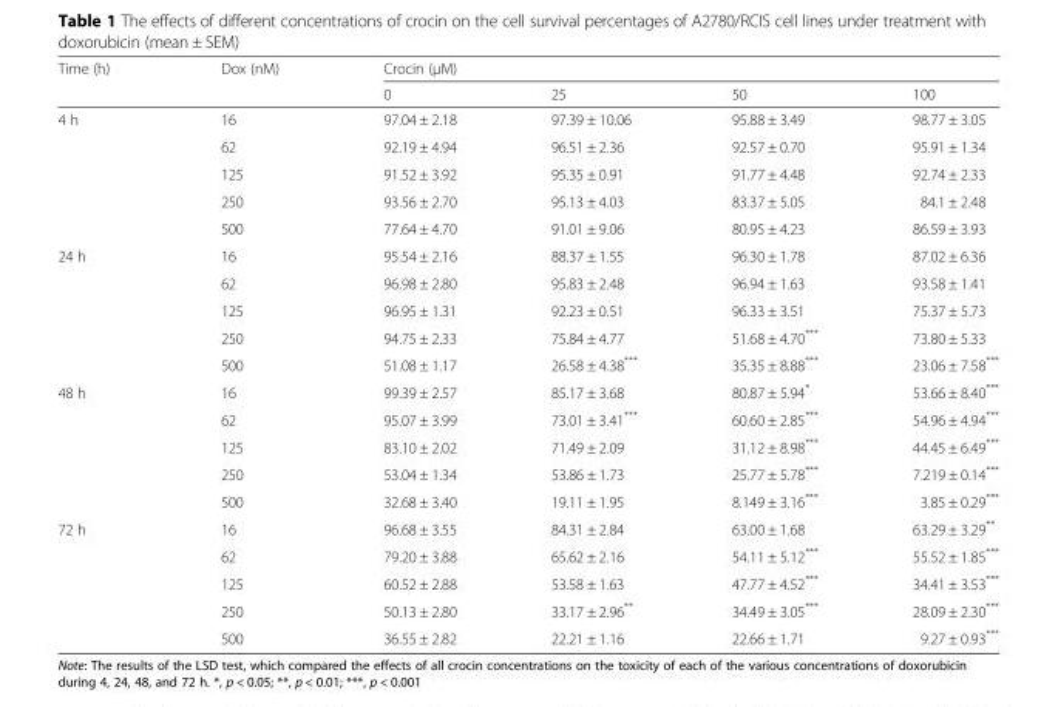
<table><thead><tr><td rowspan="2">Time (h)</td><td rowspan="2">Dox (nM)</td><td colspan="4">Crocin (μM)</td></tr><tr><td>0</td><td>25</td><td>50</td><td>100</td></tr></thead><tbody><tr><td rowspan="5">4 h</td><td>16</td><td>97.04 ± 2.18</td><td>97.39 ± 10.06</td><td>95.88 ± 3.49</td><td>98.77 ± 3.05</td></tr><tr><td>62</td><td>92.19 ± 4.94</td><td>96.51 ± 2.36</td><td>92.57 ± 0.70</td><td>95.91 ± 1.34</td></tr><tr><td>125</td><td>91.52 ± 3.92</td><td>95.35 ± 0.91</td><td>91.77 ± 4.48</td><td>92.74 ± 2.33</td></tr><tr><td>250</td><td>93.56 ± 2.70</td><td>95.13 ± 4.03</td><td>83.37 ± 5.05</td><td>84.1 ± 2.48</td></tr><tr><td>500</td><td>77.64 ± 4.70</td><td>91.01 ± 9.06</td><td>80.95 ± 4.23</td><td>86.59 ± 3.93</td></tr><tr><td rowspan="5">24 h</td><td>16</td><td>95.54 ± 2.16</td><td>88.37 ± 1.55</td><td>96.30 ± 1.78</td><td>87.02 ± 6.36</td></tr><tr><td>62</td><td>96.98 ± 2.80</td><td>95.83 ± 2.48</td><td>96.94 ± 1.63</td><td>93.58 ± 1.41</td></tr><tr><td>125</td><td>96.95 ± 1.31</td><td>92.23 ± 0.51</td><td>96.33 ± 3.51</td><td>75.37 ± 5.73</td></tr><tr><td>250</td><td>94.75 ± 2.33</td><td>75.84 ± 4.77</td><td>51.68 ± 4.70***</td><td>73.80 ± 5.33</td></tr><tr><td>500</td><td>51.08 ± 1.17</td><td>26.58 ± 4.38***</td><td>35.35 ± 8.88***</td><td>23.06 ± 7.58***</td></tr><tr><td rowspan="5">48 h</td><td>16</td><td>99.39 ± 2.57</td><td>85.17 ± 3.68</td><td>80.87 ± 5.94*</td><td>53.66 ± 8.40***</td></tr><tr><td>62</td><td>95.07 ± 3.99</td><td>73.01 ± 3.41***</td><td>60.60 ± 2.85***</td><td>54.96 ± 4.94***</td></tr><tr><td>125</td><td>83.10 ± 2.02</td><td>71.49 ± 2.09</td><td>31.12 ± 8.98***</td><td>44.45 ± 6.49***</td></tr><tr><td>250</td><td>53.04 ± 1.34</td><td>53.86 ± 1.73</td><td>25.77 ± 5.78***</td><td>7.219 ± 0.14***</td></tr><tr><td>500</td><td>32.68 ± 3.40</td><td>19.11 ± 1.95</td><td>8.149 ± 3.16***</td><td>3.85 ± 0.29***</td></tr><tr><td rowspan="5">72 h</td><td>16</td><td>96.68 ± 3.55</td><td>84.31 ± 2.84</td><td>63.00 ± 1.68</td><td>63.29 ± 3.29**</td></tr><tr><td>62</td><td>79.20 ± 3.88</td><td>65.62 ± 2.16</td><td>54.11 ± 5.12***</td><td>55.52 ± 1.85***</td></tr><tr><td>125</td><td>60.52 ± 2.88</td><td>53.58 ± 1.63</td><td>47.77 ± 4.52***</td><td>34.41 ± 3.53***</td></tr><tr><td>250</td><td>50.13 ± 2.80</td><td>33.17 ± 2.96**</td><td>34.49 ± 3.05***</td><td>28.09 ± 2.30***</td></tr><tr><td>500</td><td>36.55 ± 2.82</td><td>22.21 ± 1.16</td><td>22.66 ± 1.71</td><td>9.27 ± 0.93***</td></tr></tbody></table>